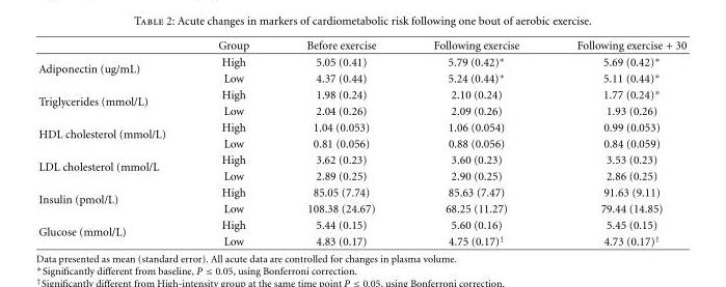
<table><thead><tr><td></td><td>Group</td><td>Before exercise</td><td>Following exercise</td><td>Following exercise + 30</td></tr></thead><tbody><tr><td rowspan="2">Adiponectin (ug/mL)</td><td>High</td><td>5.05 (0.41)</td><td>5.79 (0.42)∗</td><td>5.69 (0.42)∗</td></tr><tr><td>Low</td><td>4.37 (0.44)</td><td>5.24 (0.44)∗</td><td>5.11 (0.44)∗</td></tr><tr><td rowspan="2">Triglycerides (mmol/L)</td><td>High</td><td>1.98 (0.24)</td><td>2.10 (0.24)</td><td>1.77 (0.24)∗</td></tr><tr><td>Low</td><td>2.04 (0.26)</td><td>2.09 (0.26)</td><td>1.93 (0.26)</td></tr><tr><td rowspan="2">HDL cholesterol (mmol/L)</td><td>High</td><td>1.04 (0.053)</td><td>1.06 (0.054)</td><td>0.99 (0.053)</td></tr><tr><td>Low</td><td>0.81 (0.056)</td><td>0.88 (0.056)</td><td>0.84 (0.059)</td></tr><tr><td rowspan="2">LDL cholesterol (mmol/L</td><td>High</td><td>3.62 (0.23)</td><td>3.60 (0.23)</td><td>3.53 (0.23)</td></tr><tr><td>Low</td><td>2.89 (0.25)</td><td>2.90 (0.25)</td><td>2.86 (0.25)</td></tr><tr><td rowspan="2">Insulin (pmol/L)</td><td>High</td><td>85.05 (7.74)</td><td>85.63 (7.47)</td><td>91.63 (9.11)</td></tr><tr><td>Low</td><td>108.38 (24.67)</td><td>68.25 (11.27)</td><td>79.44 (14.85)</td></tr><tr><td rowspan="2">Glucose (mmol/L)</td><td>High</td><td>5.44 (0.15)</td><td>5.60 (0.16)</td><td>5.45 (0.15)</td></tr><tr><td>Low</td><td>4.83 (0.17)</td><td>4.75 (0.17)<sup>†</sup></td><td>4.73 (0.17)<sup>†</sup></td></tr></tbody></table>